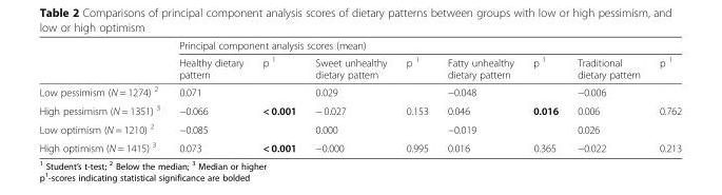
<table><thead><tr><td rowspan="2"></td><td colspan="8">Principal component analysis scores (mean)</td></tr><tr><td>Healthy dietary pattern</td><td>p <sup>1</sup></td><td>Sweet unhealthy dietary pattern</td><td>p <sup>1</sup></td><td>Fatty unhealthy dietary pattern</td><td>p <sup>1</sup></td><td>Traditional dietary pattern</td><td>p <sup>1</sup></td></tr></thead><tbody><tr><td>Low pessimism (N = 1274) <sup>2</sup></td><td>0.071</td><td></td><td>0.029</td><td></td><td>−0.048</td><td></td><td>−0.006</td><td></td></tr><tr><td>High pessimism (N = 1351) <sup>3</sup></td><td>−0.066</td><td>&lt; 0.001</td><td>− 0.027</td><td>0.153</td><td>0.046</td><td>0.016</td><td>0.006</td><td>0.762</td></tr><tr><td>Low optimism (N = 1210) <sup>2</sup></td><td>−0.085</td><td></td><td>0.000</td><td></td><td>−0.019</td><td></td><td>0.026</td><td></td></tr><tr><td>High optimism (N = 1415) <sup>3</sup></td><td>0.073</td><td>&lt; 0.001</td><td>−0.000</td><td>0.995</td><td>0.016</td><td>0.365</td><td>−0.022</td><td>0.213</td></tr></tbody></table>